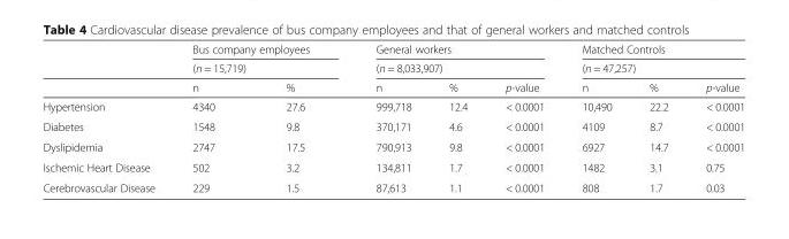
<table><thead><tr><td rowspan="3"></td><td rowspan="2" colspan="2">Bus company employees (n = 15,719)</td><td rowspan="2" colspan="3">General workers (n = 8,033,907)</td><td rowspan="2" colspan="3">Matched Controls (n = 47,257)</td></tr><tr></tr><tr><td>n</td><td>%</td><td>n</td><td>%</td><td>p-value</td><td>n</td><td>%</td><td>p-value</td></tr></thead><tbody><tr><td>Hypertension</td><td>4340</td><td>27.6</td><td>999,718</td><td>12.4</td><td>&lt; 0.0001</td><td>10,490</td><td>22.2</td><td>&lt; 0.0001</td></tr><tr><td>Diabetes</td><td>1548</td><td>9.8</td><td>370,171</td><td>4.6</td><td>&lt; 0.0001</td><td>4109</td><td>8.7</td><td>&lt; 0.0001</td></tr><tr><td>Dyslipidemia</td><td>2747</td><td>17.5</td><td>790,913</td><td>9.8</td><td>&lt; 0.0001</td><td>6927</td><td>14.7</td><td>&lt; 0.0001</td></tr><tr><td>Ischemic Heart Disease</td><td>502</td><td>3.2</td><td>134,811</td><td>1.7</td><td>&lt; 0.0001</td><td>1482</td><td>3.1</td><td>0.75</td></tr><tr><td>Cerebrovascular Disease</td><td>229</td><td>1.5</td><td>87,613</td><td>1.1</td><td>&lt; 0.0001</td><td>808</td><td>1.7</td><td>0.03</td></tr></tbody></table>